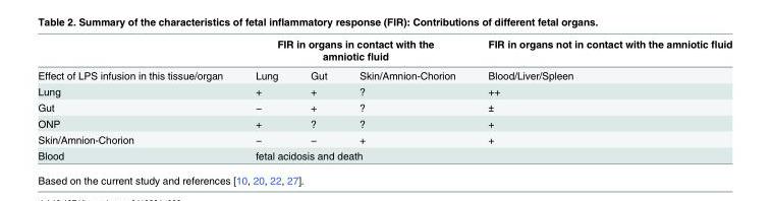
<table><thead><tr><td rowspan="2">Effect of LPS infusion in this tissue/organ</td><td colspan="3">FIR in organs in contact with the amniotic fluid</td><td rowspan="2">FIR in organs not in contact with the amniotic fluid Blood/Liver/Spleen</td></tr><tr><td>Lung</td><td>Gut</td><td>Skin/Amnion-Chorion</td></tr></thead><tbody><tr><td>Lung</td><td>+</td><td>+</td><td>?</td><td>++</td></tr><tr><td>Gut</td><td>−</td><td>+</td><td>?</td><td>±</td></tr><tr><td>ONP</td><td>+</td><td>?</td><td>?</td><td>+</td></tr><tr><td>Skin/Amnion-Chorion</td><td>−</td><td>−</td><td>+</td><td>+</td></tr><tr><td>Blood</td><td colspan="4">fetal acidosis and death</td></tr></tbody></table>